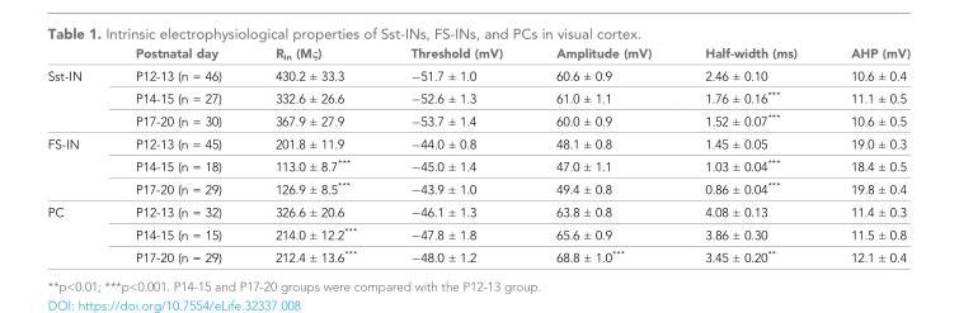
<table><thead><tr><td></td><td>Postnatal day</td><td>R<sub>in</sub> (MΩ)</td><td>Threshold (mV)</td><td>Amplitude (mV)</td><td>Half-width (ms)</td><td>AHP (mV)</td></tr></thead><tbody><tr><td rowspan="3">Sst-IN</td><td>P12-13 (n = 46)</td><td>430.2 ± 33.3</td><td>−51.7 ± 1.0</td><td>60.6 ± 0.9</td><td>2.46 ± 0.10</td><td>10.6 ± 0.4</td></tr><tr><td>P14-15 (n = 27)</td><td>332.6 ± 26.6</td><td>−52.6 ± 1.3</td><td>61.0 ± 1.1</td><td>1.76 ± 0.16***</td><td>11.1 ± 0.5</td></tr><tr><td>P17-20 (n = 30)</td><td>367.9 ± 27.9</td><td>−53.7 ± 1.4</td><td>60.0 ± 0.9</td><td>1.52 ± 0.07***</td><td>10.6 ± 0.5</td></tr><tr><td rowspan="3">FS-IN</td><td>P12-13 (n = 45)</td><td>201.8 ± 11.9</td><td>−44.0 ± 0.8</td><td>48.1 ± 0.8</td><td>1.45 ± 0.05</td><td>19.0 ± 0.3</td></tr><tr><td>P14-15 (n = 18)</td><td>113.0 ± 8.7***</td><td>−45.0 ± 1.4</td><td>47.0 ± 1.1</td><td>1.03 ± 0.04***</td><td>18.4 ± 0.5</td></tr><tr><td>P17-20 (n = 29)</td><td>126.9 ± 8.5***</td><td>−43.9 ± 1.0</td><td>49.4 ± 0.8</td><td>0.86 ± 0.04***</td><td>19.8 ± 0.4</td></tr><tr><td rowspan="3">PC</td><td>P12-13 (n = 32)</td><td>326.6 ± 20.6</td><td>−46.1 ± 1.3</td><td>63.8 ± 0.8</td><td>4.08 ± 0.13</td><td>11.4 ± 0.3</td></tr><tr><td>P14-15 (n = 15)</td><td>214.0 ± 12.2***</td><td>−47.8 ± 1.8</td><td>65.6 ± 0.9</td><td>3.86 ± 0.30</td><td>11.5 ± 0.8</td></tr><tr><td>P17-20 (n = 29)</td><td>212.4 ± 13.6***</td><td>−48.0 ± 1.2</td><td>68.8 ± 1.0***</td><td>3.45 ± 0.20**</td><td>12.1 ± 0.4</td></tr></tbody></table>